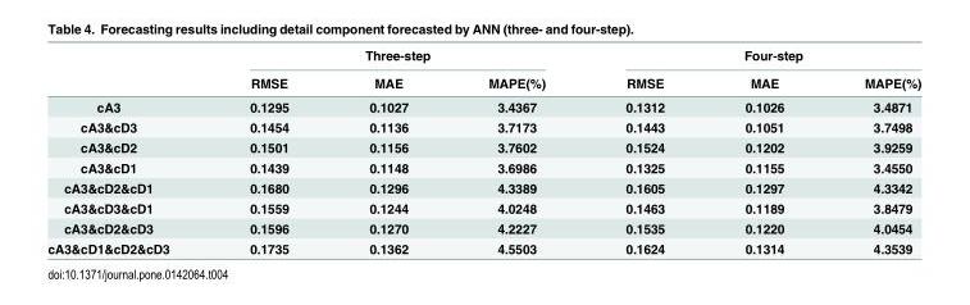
<table><thead><tr><td rowspan="2"></td><td colspan="3">Three-step</td><td colspan="3">Four-step</td></tr><tr><td>RMSE</td><td>MAE</td><td>MAPE(%)</td><td>RMSE</td><td>MAE</td><td>MAPE(%)</td></tr></thead><tbody><tr><td>cA3</td><td>0.1295</td><td>0.1027</td><td>3.4367</td><td>0.1312</td><td>0.1026</td><td>3.4871</td></tr><tr><td>cA3&amp;cD3</td><td>0.1454</td><td>0.1136</td><td>3.7173</td><td>0.1443</td><td>0.1051</td><td>3.7498</td></tr><tr><td>cA3&amp;cD2</td><td>0.1501</td><td>0.1156</td><td>3.7602</td><td>0.1524</td><td>0.1202</td><td>3.9259</td></tr><tr><td>cA3&amp;cD1</td><td>0.1439</td><td>0.1148</td><td>3.6986</td><td>0.1325</td><td>0.1155</td><td>3.4550</td></tr><tr><td>cA3&amp;cD2&amp;cD1</td><td>0.1680</td><td>0.1296</td><td>4.3389</td><td>0.1605</td><td>0.1297</td><td>4.3342</td></tr><tr><td>cA3&amp;cD3&amp;cD1</td><td>0.1559</td><td>0.1244</td><td>4.0248</td><td>0.1463</td><td>0.1189</td><td>3.8479</td></tr><tr><td>cA3&amp;cD2&amp;cD3</td><td>0.1596</td><td>0.1270</td><td>4.2227</td><td>0.1535</td><td>0.1220</td><td>4.0454</td></tr><tr><td>cA3&amp;cD1&amp;cD2&amp;cD3</td><td>0.1735</td><td>0.1362</td><td>4.5503</td><td>0.1624</td><td>0.1314</td><td>4.3539</td></tr></tbody></table>